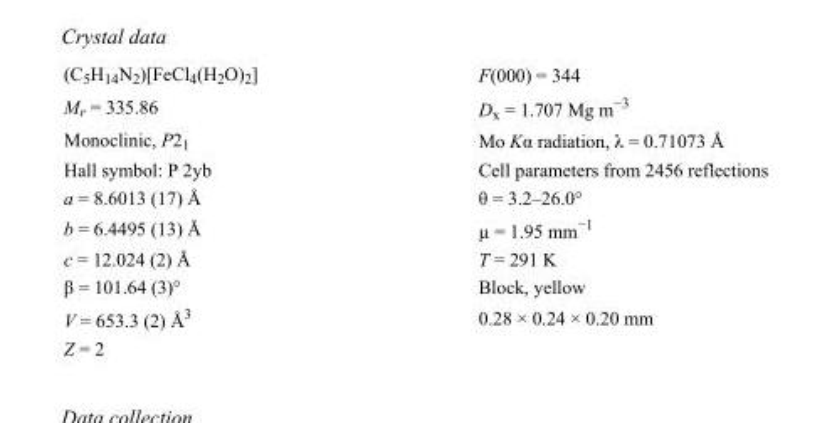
<table><tbody><tr><td>(C<sub>5</sub>H<sub>14</sub>N<sub>2</sub>)[FeCl<sub>4</sub>(H<sub>2</sub>O)<sub>2</sub>]</td><td>F(000) = 344</td></tr><tr><td>M<sub>r</sub> = 335.86</td><td>D<sub>x</sub> = 1.707 Mg m<sup>−3</sup></td></tr><tr><td>Monoclinic, P2<sub>1</sub></td><td>Mo Kα radiation, λ = 0.71073 Å</td></tr><tr><td>Hall symbol: P 2yb</td><td>Cell parameters from 2456 reflections</td></tr><tr><td>a = 8.6013 (17) Å</td><td>θ = 3.2–26.0°</td></tr><tr><td>b = 6.4495 (13) Å</td><td>µ = 1.95 mm<sup>−1</sup></td></tr><tr><td>c = 12.024 (2) Å</td><td>T = 291 K</td></tr><tr><td>β = 101.64 (3)°</td><td>Block, yellow</td></tr><tr><td>V = 653.3 (2) Å<sup>3</sup></td><td>0.28 × 0.24 × 0.20 mm</td></tr><tr><td>Z = 2</td><td></td></tr></tbody></table>